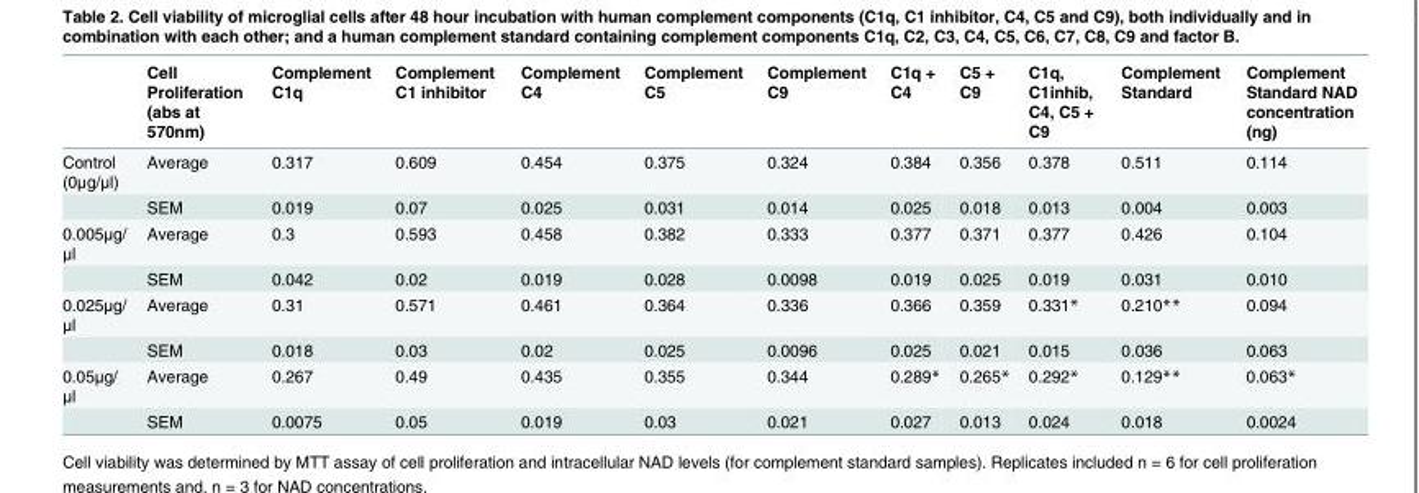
<table><thead><tr><td></td><td>Cell Proliferation (abs at 570nm)</td><td>Complement C1q</td><td>Complement C1 inhibitor</td><td>Complement C4</td><td>Complement C5</td><td>Complement C9</td><td>C1q + C4</td><td>C5 + C9</td><td>C1q, C1inhib, C4, C5 + C9</td><td>Complement Standard</td><td>Complement Standard NAD concentration (ng)</td></tr></thead><tbody><tr><td rowspan="2">Control (0μg/μl)</td><td>Average</td><td>0.317</td><td>0.609</td><td>0.454</td><td>0.375</td><td>0.324</td><td>0.384</td><td>0.356</td><td>0.378</td><td>0.511</td><td>0.114</td></tr><tr><td>SEM</td><td>0.019</td><td>0.07</td><td>0.025</td><td>0.031</td><td>0.014</td><td>0.025</td><td>0.018</td><td>0.013</td><td>0.004</td><td>0.003</td></tr><tr><td rowspan="2">0.005μg/ μl</td><td>Average</td><td>0.3</td><td>0.593</td><td>0.458</td><td>0.382</td><td>0.333</td><td>0.377</td><td>0.371</td><td>0.377</td><td>0.426</td><td>0.104</td></tr><tr><td>SEM</td><td>0.042</td><td>0.02</td><td>0.019</td><td>0.028</td><td>0.0098</td><td>0.019</td><td>0.025</td><td>0.019</td><td>0.031</td><td>0.010</td></tr><tr><td rowspan="2">0.025μg/ μl</td><td>Average</td><td>0.31</td><td>0.571</td><td>0.461</td><td>0.364</td><td>0.336</td><td>0.366</td><td>0.359</td><td>0.331*</td><td>0.210**</td><td>0.094</td></tr><tr><td>SEM</td><td>0.018</td><td>0.03</td><td>0.02</td><td>0.025</td><td>0.0096</td><td>0.025</td><td>0.021</td><td>0.015</td><td>0.036</td><td>0.063</td></tr><tr><td rowspan="2">0.05μg/ μl</td><td>Average</td><td>0.267</td><td>0.49</td><td>0.435</td><td>0.355</td><td>0.344</td><td>0.289*</td><td>0.265*</td><td>0.292*</td><td>0.129**</td><td>0.063*</td></tr><tr><td>SEM</td><td>0.0075</td><td>0.05</td><td>0.019</td><td>0.03</td><td>0.021</td><td>0.027</td><td>0.013</td><td>0.024</td><td>0.018</td><td>0.0024</td></tr></tbody></table>